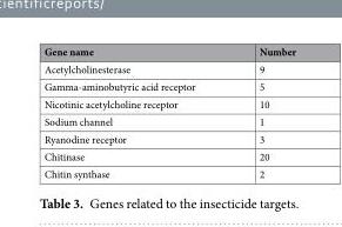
<table><thead><tr><td>Gene name</td><td>Number</td></tr></thead><tbody><tr><td>Acetylcholinesterase</td><td>9</td></tr><tr><td>Gamma-aminobutyric acid receptor</td><td>5</td></tr><tr><td>Nicotinic acetylcholine receptor</td><td>10</td></tr><tr><td>Sodium channel</td><td>1</td></tr><tr><td>Ryanodine receptor</td><td>3</td></tr><tr><td>Chitinase</td><td>20</td></tr><tr><td>Chitin synthase</td><td>2</td></tr></tbody></table>